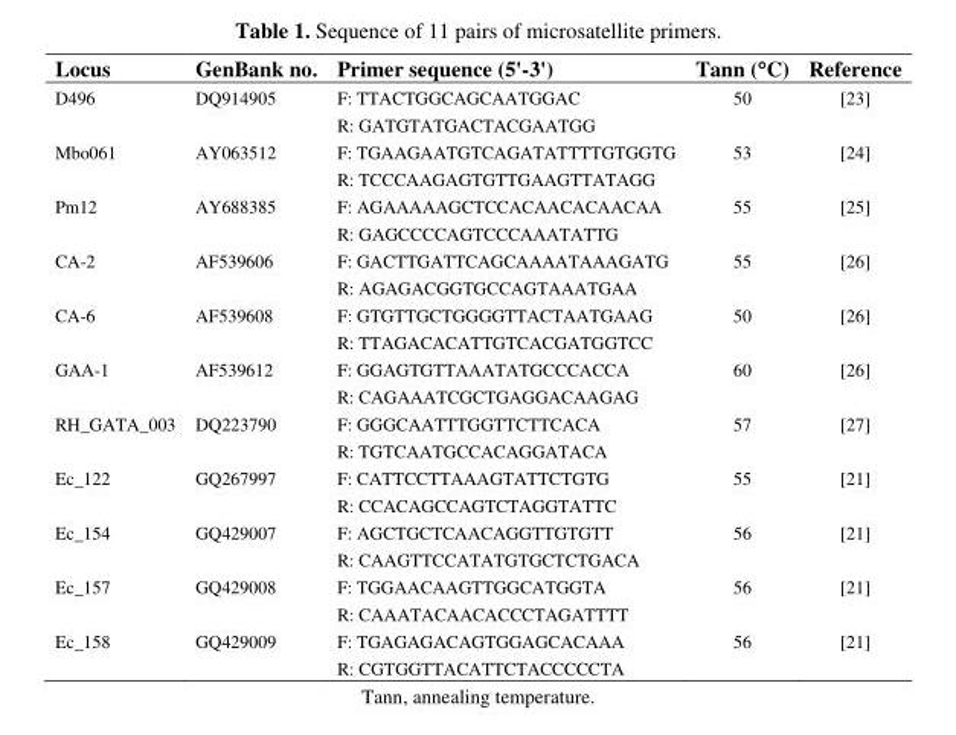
<table><thead><tr><td>Locus</td><td>GenBank no.</td><td>Primer sequence (5&#x27;-3&#x27;)</td><td>Tann (°C)</td><td>Reference</td></tr></thead><tbody><tr><td rowspan="2">D496</td><td>DQ914905</td><td>F: TTACTGGCAGCAATGGAC</td><td>50</td><td>[23]</td></tr><tr><td></td><td>R: GATGTATGACTACGAATGG</td><td></td><td></td></tr><tr><td rowspan="2">Mbo061</td><td>AY063512</td><td>F: TGAAGAATGTCAGATATTTTGTGGTG</td><td>53</td><td>[24]</td></tr><tr><td></td><td>R: TCCCAAGAGTGTTGAAGTTATAGG</td><td></td><td></td></tr><tr><td rowspan="2">Pm12</td><td>AY688385</td><td>F: AGAAAAAGCTCCACAACACAACAA</td><td>55</td><td>[25]</td></tr><tr><td></td><td>R: GAGCCCCAGTCCCAAATATTG</td><td></td><td></td></tr><tr><td rowspan="2">CA-2</td><td>AF539606</td><td>F: GACTTGATTCAGCAAAATAAAGATG</td><td>55</td><td>[26]</td></tr><tr><td></td><td>R: AGAGACGGTGCCAGTAAATGAA</td><td></td><td></td></tr><tr><td rowspan="2">CA-6</td><td>AF539608</td><td>F: GTGTTGCTGGGGTTACTAATGAAG</td><td>50</td><td>[26]</td></tr><tr><td></td><td>R: TTAGACACATTGTCACGATGGTCC</td><td></td><td></td></tr><tr><td rowspan="2">GAA-1</td><td>AF539612</td><td>F: GGAGTGTTAAATATGCCCACCA</td><td>60</td><td>[26]</td></tr><tr><td></td><td>R: CAGAAATCGCTGAGGACAAGAG</td><td></td><td></td></tr><tr><td rowspan="2">RH_GATA_003</td><td>DQ223790</td><td>F: GGGCAATTTGGTTCTTCACA</td><td>57</td><td>[27]</td></tr><tr><td></td><td>R: TGTCAATGCCACAGGATACA</td><td></td><td></td></tr><tr><td rowspan="2">Ec_122</td><td>GQ267997</td><td>F: CATTCCTTAAAGTATTCTGTG</td><td>55</td><td>[21]</td></tr><tr><td></td><td>R: CCACAGCCAGTCTAGGTATTC</td><td></td><td></td></tr><tr><td rowspan="2">Ec_154</td><td>GQ429007</td><td>F: AGCTGCTCAACAGGTTGTGTT</td><td>56</td><td>[21]</td></tr><tr><td></td><td>R: CAAGTTCCATATGTGCTCTGACA</td><td></td><td></td></tr><tr><td rowspan="2">Ec_157</td><td>GQ429008</td><td>F: TGGAACAAGTTGGCATGGTA</td><td>56</td><td>[21]</td></tr><tr><td></td><td>R: CAAATACAACACCCTAGATTTT</td><td></td><td></td></tr><tr><td rowspan="2">Ec_158</td><td>GQ429009</td><td>F: TGAGAGACAGTGGAGCACAAA</td><td>56</td><td>[21]</td></tr><tr><td></td><td>R: CGTGGTTACATTCTACCCCCTA</td><td></td><td></td></tr></tbody></table>